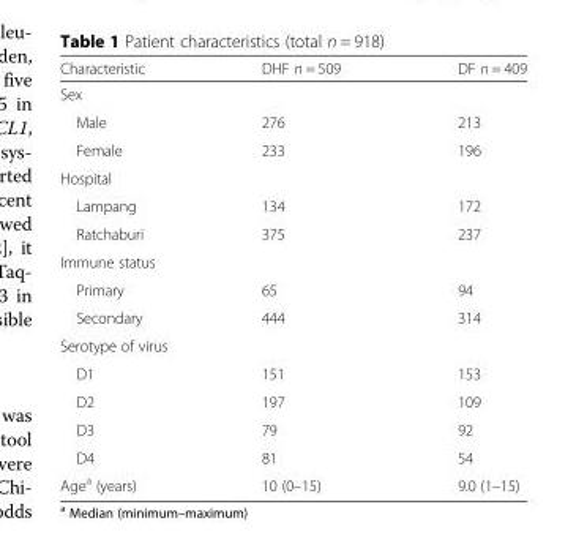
<table><thead><tr><td>Characteristic</td><td>DHF n = 509</td><td>DF n = 409</td></tr></thead><tbody><tr><td colspan="3">Sex</td></tr><tr><td>Male</td><td>276</td><td>213</td></tr><tr><td>Female</td><td>233</td><td>196</td></tr><tr><td colspan="3">Hospital</td></tr><tr><td>Lampang</td><td>134</td><td>172</td></tr><tr><td>Ratchaburi</td><td>375</td><td>237</td></tr><tr><td colspan="3">Immune status</td></tr><tr><td>Primary</td><td>65</td><td>94</td></tr><tr><td>Secondary</td><td>444</td><td>314</td></tr><tr><td colspan="3">Serotype of virus</td></tr><tr><td>D1</td><td>151</td><td>153</td></tr><tr><td>D2</td><td>197</td><td>109</td></tr><tr><td>D3</td><td>79</td><td>92</td></tr><tr><td>D4</td><td>81</td><td>54</td></tr><tr><td>Age<sup>a</sup> (years)</td><td>10 (0–15)</td><td>9.0 (1–15)</td></tr></tbody></table>